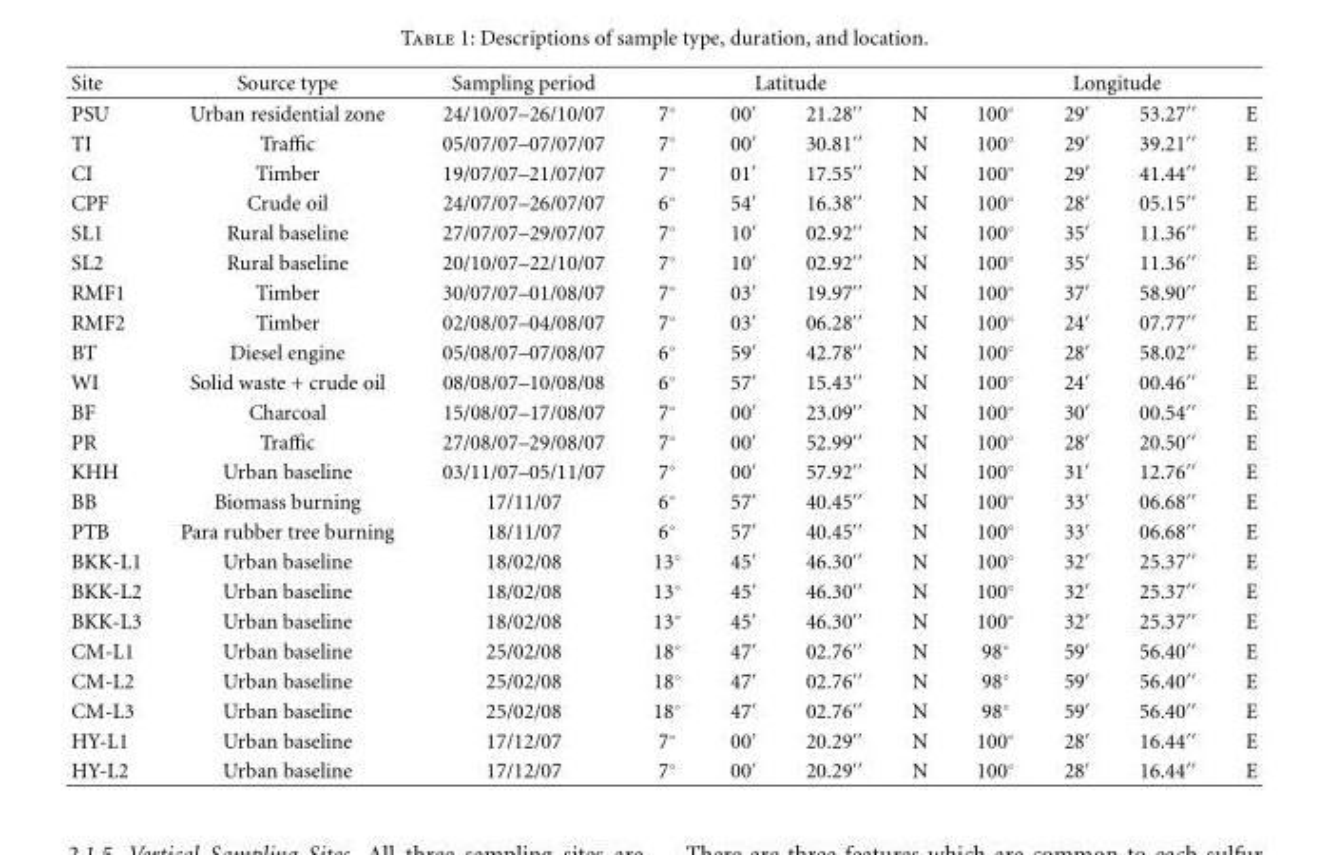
<table><thead><tr><td rowspan="2">Site PSU</td><td rowspan="2">Source type Urban residential zone</td><td rowspan="2">Sampling period 24/10/07–26/10/07</td><td colspan="4">Latitude</td><td colspan="4">Longitude</td></tr><tr><td>7◦</td><td>00′</td><td>21.28′′</td><td>N</td><td>100◦</td><td>29′</td><td>53.27′′</td><td>E</td></tr></thead><tbody><tr><td>TI</td><td>Traffic</td><td>05/07/07–07/07/07</td><td>7◦</td><td>00′</td><td>30.81′′</td><td>N</td><td>100◦</td><td>29′</td><td>39.21′′</td><td>E</td></tr><tr><td>CI</td><td>Timber</td><td>19/07/07–21/07/07</td><td>7◦</td><td>01′</td><td>17.55′′</td><td>N</td><td>100◦</td><td>29′</td><td>41.44′′</td><td>E</td></tr><tr><td>CPF</td><td>Crude oil</td><td>24/07/07–26/07/07</td><td>6◦</td><td>54′</td><td>16.38′′</td><td>N</td><td>100◦</td><td>28′</td><td>05.15′′</td><td>E</td></tr><tr><td>SL1</td><td>Rural baseline</td><td>27/07/07–29/07/07</td><td>7◦</td><td>10′</td><td>02.92′′</td><td>N</td><td>100◦</td><td>35′</td><td>11.36′′</td><td>E</td></tr><tr><td>SL2</td><td>Rural baseline</td><td>20/10/07–22/10/07</td><td>7◦</td><td>10′</td><td>02.92′′</td><td>N</td><td>100◦</td><td>35′</td><td>11.36′′</td><td>E</td></tr><tr><td>RMF1</td><td>Timber</td><td>30/07/07–01/08/07</td><td>7◦</td><td>03′</td><td>19.97′′</td><td>N</td><td>100◦</td><td>37′</td><td>58.90′′</td><td>E</td></tr><tr><td>RMF2</td><td>Timber</td><td>02/08/07–04/08/07</td><td>7◦</td><td>03′</td><td>06.28′′</td><td>N</td><td>100◦</td><td>24′</td><td>07.77′′</td><td>E</td></tr><tr><td>BT</td><td>Diesel engine</td><td>05/08/07–07/08/07</td><td>6◦</td><td>59′</td><td>42.78′′</td><td>N</td><td>100◦</td><td>28′</td><td>58.02′′</td><td>E</td></tr><tr><td>WI</td><td>Solid waste + crude oil</td><td>08/08/07–10/08/08</td><td>6◦</td><td>57′</td><td>15.43′′</td><td>N</td><td>100◦</td><td>24′</td><td>00.46′′</td><td>E</td></tr><tr><td>BF</td><td>Charcoal</td><td>15/08/07–17/08/07</td><td>7◦</td><td>00′</td><td>23.09′′</td><td>N</td><td>100◦</td><td>30′</td><td>00.54′′</td><td>E</td></tr><tr><td>PR</td><td>Traffic</td><td>27/08/07–29/08/07</td><td>7◦</td><td>00′</td><td>52.99′′</td><td>N</td><td>100◦</td><td>28′</td><td>20.50′′</td><td>E</td></tr><tr><td>KHH</td><td>Urban baseline</td><td>03/11/07–05/11/07</td><td>7◦</td><td>00′</td><td>57.92′′</td><td>N</td><td>100◦</td><td>31′</td><td>12.76′′</td><td>E</td></tr><tr><td>BB</td><td>Biomass burning</td><td>17/11/07</td><td>6◦</td><td>57′</td><td>40.45′′</td><td>N</td><td>100◦</td><td>33′</td><td>06.68′′</td><td>E</td></tr><tr><td>PTB</td><td>Para rubber tree burning</td><td>18/11/07</td><td>6◦</td><td>57′</td><td>40.45′′</td><td>N</td><td>100◦</td><td>33′</td><td>06.68′′</td><td>E</td></tr><tr><td>BKK-L1</td><td>Urban baseline</td><td>18/02/08</td><td>13◦</td><td>45′</td><td>46.30′′</td><td>N</td><td>100◦</td><td>32′</td><td>25.37′′</td><td>E</td></tr><tr><td>BKK-L2</td><td>Urban baseline</td><td>18/02/08</td><td>13◦</td><td>45′</td><td>46.30′′</td><td>N</td><td>100◦</td><td>32′</td><td>25.37′′</td><td>E</td></tr><tr><td>BKK-L3</td><td>Urban baseline</td><td>18/02/08</td><td>13◦</td><td>45′</td><td>46.30′′</td><td>N</td><td>100◦</td><td>32′</td><td>25.37′′</td><td>E</td></tr><tr><td>CM-L1</td><td>Urban baseline</td><td>25/02/08</td><td>18◦</td><td>47′</td><td>02.76′′</td><td>N</td><td>98◦</td><td>59′</td><td>56.40′′</td><td>E</td></tr><tr><td>CM-L2</td><td>Urban baseline</td><td>25/02/08</td><td>18◦</td><td>47′</td><td>02.76′′</td><td>N</td><td>98◦</td><td>59′</td><td>56.40′′</td><td>E</td></tr><tr><td>CM-L3</td><td>Urban baseline</td><td>25/02/08</td><td>18◦</td><td>47′</td><td>02.76′′</td><td>N</td><td>98◦</td><td>59′</td><td>56.40′′</td><td>E</td></tr><tr><td>HY-L1</td><td>Urban baseline</td><td>17/12/07</td><td>7◦</td><td>00′</td><td>20.29′′</td><td>N</td><td>100◦</td><td>28′</td><td>16.44′′</td><td>E</td></tr><tr><td>HY-L2</td><td>Urban baseline</td><td>17/12/07</td><td>7◦</td><td>00′</td><td>20.29′′</td><td>N</td><td>100◦</td><td>28′</td><td>16.44′′</td><td>E</td></tr></tbody></table>